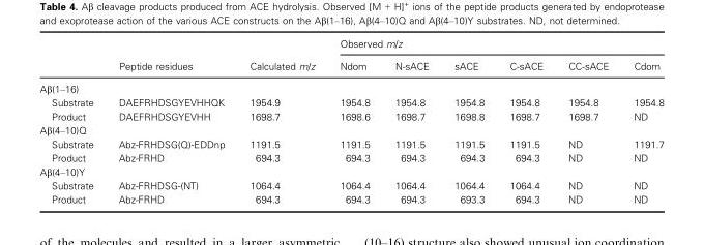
<table><thead><tr><td rowspan="2"></td><td rowspan="2">Peptide residues</td><td rowspan="2">Calculated m/z</td><td colspan="6">Observed m/z</td></tr><tr><td>Ndom</td><td>N-sACE</td><td>sACE</td><td>C-sACE</td><td>CC-sACE</td><td>Cdom</td></tr></thead><tbody><tr><td colspan="9">Aβ(1–16)</td></tr><tr><td>Substrate</td><td>DAEFRHDSGYEVHHQK</td><td>1954.9</td><td>1954.8</td><td>1954.8</td><td>1954.8</td><td>1954.8</td><td>1954.8</td><td>1954.8</td></tr><tr><td>Product</td><td>DAEFRHDSGYEVHH</td><td>1698.7</td><td>1698.6</td><td>1698.7</td><td>1698.8</td><td>1698.7</td><td>1698.7</td><td>ND</td></tr><tr><td colspan="9">Aβ(4–10)Q</td></tr><tr><td>Substrate</td><td>Abz-FRHDSG(Q)-EDDnp</td><td>1191.5</td><td>1191.5</td><td>1191.5</td><td>1191.5</td><td>1191.5</td><td>ND</td><td>1191.7</td></tr><tr><td>Product</td><td>Abz-FRHD</td><td>694.3</td><td>694.3</td><td>694.3</td><td>694.3</td><td>694.3</td><td>ND</td><td>ND</td></tr><tr><td colspan="9">Aβ(4–10)Y</td></tr><tr><td>Substrate</td><td>Abz-FRHDSG-(NT)</td><td>1064.4</td><td>1064.4</td><td>1064.4</td><td>1064.4</td><td>1064.4</td><td>ND</td><td>ND</td></tr><tr><td>Product</td><td>Abz-FRHD</td><td>694.3</td><td>694.3</td><td>694.3</td><td>693.3</td><td>694.3</td><td>ND</td><td>ND</td></tr></tbody></table>